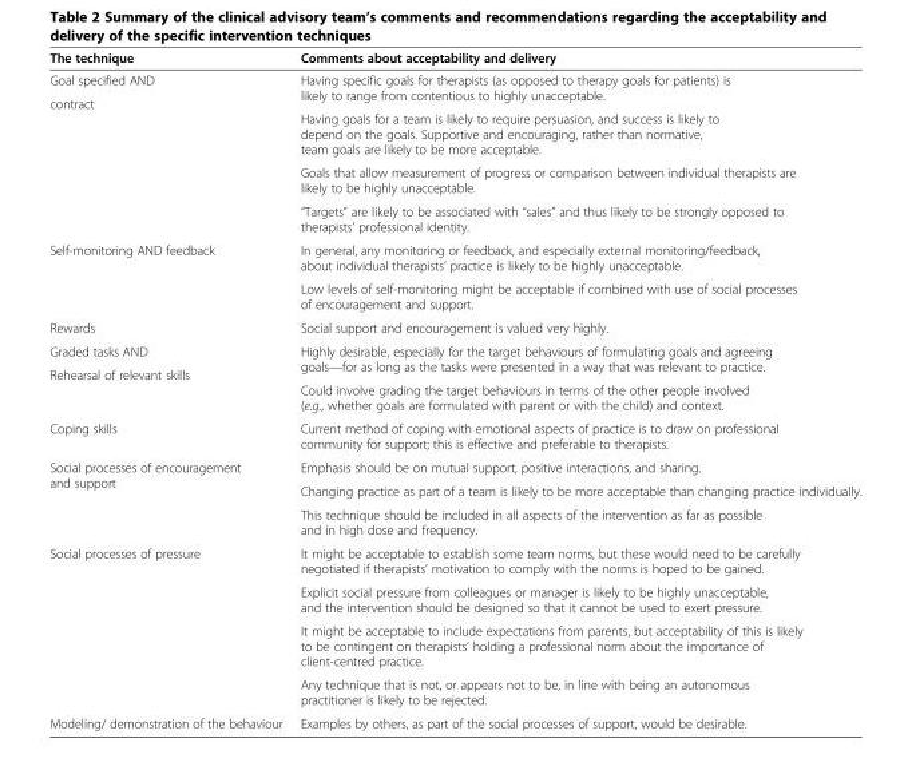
<table><thead><tr><td>The technique</td><td>Comments about acceptability and delivery</td></tr></thead><tbody><tr><td>Goal specified AND</td><td rowspan="2">Having specific goals for therapists (as opposed to therapy goals for patients) is likely to range from contentious to highly unacceptable.</td></tr><tr><td rowspan="4">contract</td></tr><tr><td>Having goals for a team is likely to require persuasion, and success is likely to depend on the goals. Supportive and encouraging, rather than normative, team goals are likely to be more acceptable.</td></tr><tr><td>Goals that allow measurement of progress or comparison between individual therapists are likely to be highly unacceptable.</td></tr><tr><td>“Targets” are likely to be associated with “sales” and thus likely to be strongly opposed to therapists’ professional identity.</td></tr><tr><td rowspan="2">Self-monitoring AND feedback</td><td>In general, any monitoring or feedback, and especially external monitoring/feedback, about individual therapists’ practice is likely to be highly unacceptable.</td></tr><tr><td>Low levels of self-monitoring might be acceptable if combined with use of social processes of encouragement and support.</td></tr><tr><td>Rewards</td><td>Social support and encouragement is valued very highly.</td></tr><tr><td>Graded tasks AND</td><td rowspan="2">Highly desirable, especially for the target behaviours of formulating goals and agreeing goals—for as long as the tasks were presented in a way that was relevant to practice.</td></tr><tr><td rowspan="2">Rehearsal of relevant skills</td></tr><tr><td>Could involve grading the target behaviours in terms of the other people involved (e.g., whether goals are formulated with parent or with the child) and context.</td></tr><tr><td>Coping skills</td><td>Current method of coping with emotional aspects of practice is to draw on professional community for support; this is effective and preferable to therapists.</td></tr><tr><td rowspan="3">Social processes of encouragement and support</td><td>Emphasis should be on mutual support, positive interactions, and sharing.</td></tr><tr><td>Changing practice as part of a team is likely to be more acceptable than changing practice individually.</td></tr><tr><td>This technique should be included in all aspects of the intervention as far as possible and in high dose and frequency.</td></tr><tr><td rowspan="4">Social processes of pressure</td><td>It might be acceptable to establish some team norms, but these would need to be carefully negotiated if therapists’ motivation to comply with the norms is hoped to be gained.</td></tr><tr><td>Explicit social pressure from colleagues or manager is likely to be highly unacceptable, and the intervention should be designed so that it cannot be used to exert pressure.</td></tr><tr><td>It might be acceptable to include expectations from parents, but acceptability of this is likely to be contingent on therapists’ holding a professional norm about the importance of client-centred practice.</td></tr><tr><td>Any technique that is not, or appears not to be, in line with being an autonomous practitioner is likely to be rejected.</td></tr><tr><td>Modeling/ demonstration of the behaviour</td><td>Examples by others, as part of the social processes of support, would be desirable.</td></tr></tbody></table>